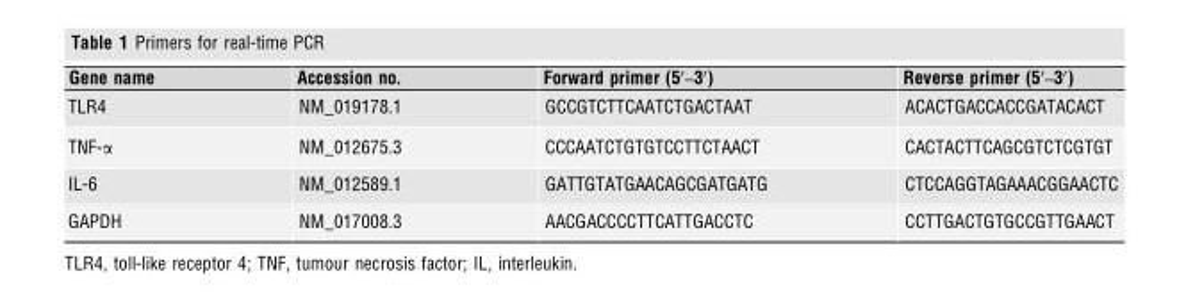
<table><thead><tr><td>Gene name</td><td>Accession no.</td><td>Forward primer (5′–3′)</td><td>Reverse primer (5′–3′)</td></tr></thead><tbody><tr><td>TLR4</td><td>NM_019178.1</td><td>GCCGTCTTCAATCTGACTAAT</td><td>ACACTGACCACCGATACACT</td></tr><tr><td>TNF-α</td><td>NM_012675.3</td><td>CCCAATCTGTGTCCTTCTAACT</td><td>CACTACTTCAGCGTCTCGTGT</td></tr><tr><td>IL-6</td><td>NM_012589.1</td><td>GATTGTATGAACAGCGATGATG</td><td>CTCCAGGTAGAAACGGAACTC</td></tr><tr><td>GAPDH</td><td>NM_017008.3</td><td>AACGACCCCTTCATTGACCTC</td><td>CCTTGACTGTGCCGTTGAACT</td></tr></tbody></table>